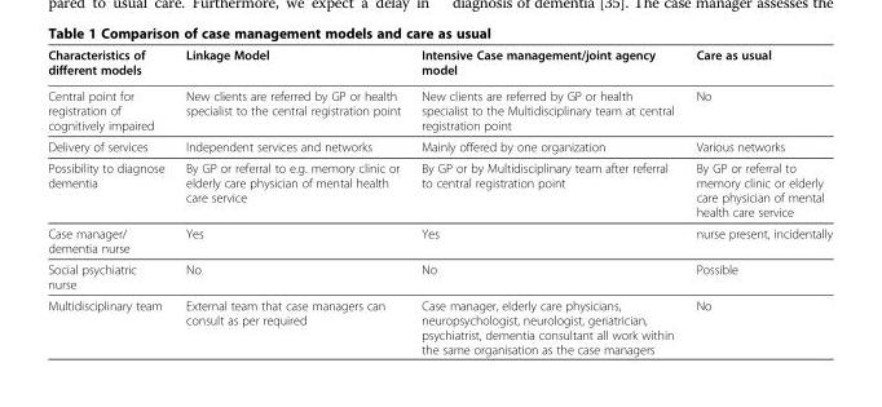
<table><thead><tr><td>Characteristics of different models</td><td>Linkage Model</td><td>Intensive Case management/joint agency model</td><td>Care as usual</td></tr></thead><tbody><tr><td>Central point for registration of cognitively impaired</td><td>New clients are referred by GP or health specialist to the central registration point</td><td>New clients are referred by GP or health specialist to the Multidisciplinary team at central registration point</td><td>No</td></tr><tr><td>Delivery of services</td><td>Independent services and networks</td><td>Mainly offered by one organization</td><td>Various networks</td></tr><tr><td>Possibility to diagnose dementia</td><td>By GP or referral to e.g. memory clinic or elderly care physician of mental health care service</td><td>By GP or by Multidisciplinary team after referral to central registration point</td><td>By GP or referral to memory clinic or elderly care physician of mental health care service</td></tr><tr><td>Case manager/ dementia nurse</td><td>Yes</td><td>Yes</td><td>nurse present, incidentally</td></tr><tr><td>Social psychiatric nurse</td><td>No</td><td>No</td><td>Possible</td></tr><tr><td>Multidisciplinary team</td><td>External team that case managers can consult as per required</td><td>Case manager, elderly care physicians, neuropsychologist, neurologist, geriatrician, psychiatrist, dementia consultant all work within the same organisation as the case managers</td><td>No</td></tr></tbody></table>